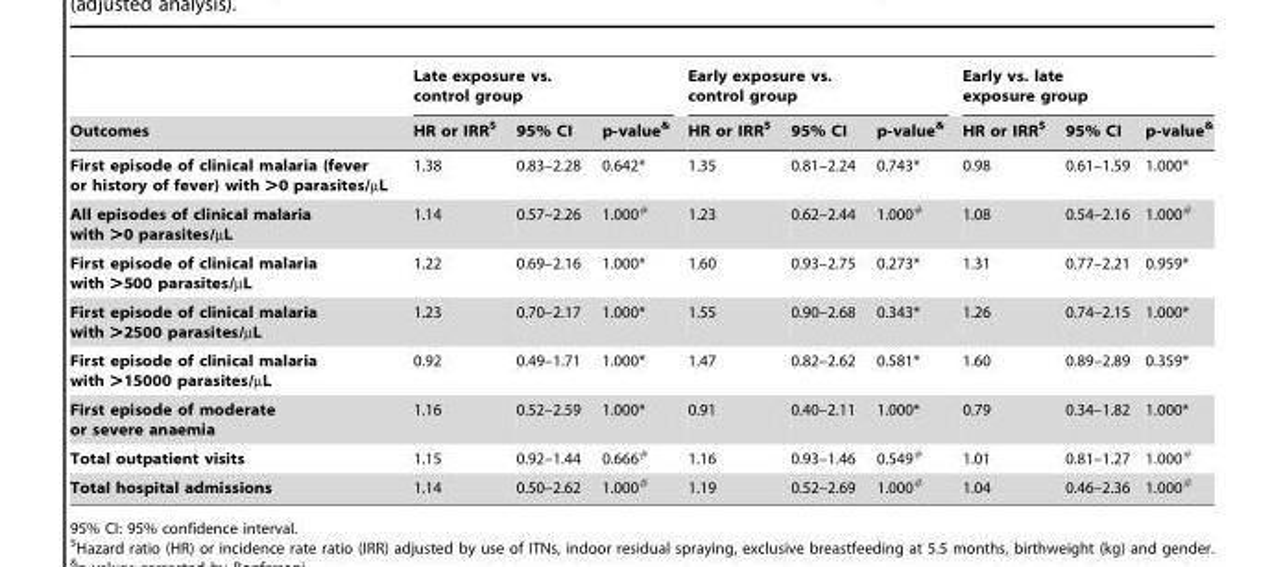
<table><thead><tr><td rowspan="2">Outcomes</td><td colspan="3">Late exposure vs. control group</td><td colspan="3">Early exposure vs. control group</td><td colspan="3">Early vs. late exposure group</td></tr><tr><td>HR or IRR$</td><td>95% CI</td><td>p-value&amp;</td><td>HR or IRR$</td><td>95% CI</td><td>p-value&amp;</td><td>HR or IRR$</td><td>95% CI</td><td>p-value&amp;</td></tr></thead><tbody><tr><td>First episode of clinical malaria (fever or history of fever) with &gt;0 parasites/µL</td><td>1.38</td><td>0.83–2.28</td><td>0.642*</td><td>1.35</td><td>0.81–2.24</td><td>0.743*</td><td>0.98</td><td>0.61–1.59</td><td>1.000*</td></tr><tr><td>All episodes of clinical malaria with &gt;0 parasites/µL</td><td>1.14</td><td>0.57–2.26</td><td>1.000#</td><td>1.23</td><td>0.62–2.44</td><td>1.000#</td><td>1.08</td><td>0.54–2.16</td><td>1.000#</td></tr><tr><td>First episode of clinical malaria with &gt;500 parasites/µL</td><td>1.22</td><td>0.69–2.16</td><td>1.000*</td><td>1.60</td><td>0.93–2.75</td><td>0.273*</td><td>1.31</td><td>0.77–2.21</td><td>0.959*</td></tr><tr><td>First episode of clinical malaria with &gt;2500 parasites/µL</td><td>1.23</td><td>0.70–2.17</td><td>1.000*</td><td>1.55</td><td>0.90–2.68</td><td>0.343*</td><td>1.26</td><td>0.74–2.15</td><td>1.000*</td></tr><tr><td>First episode of clinical malaria with &gt;15000 parasites/µL</td><td>0.92</td><td>0.49–1.71</td><td>1.000*</td><td>1.47</td><td>0.82–2.62</td><td>0.581*</td><td>1.60</td><td>0.89–2.89</td><td>0.359*</td></tr><tr><td>First episode of moderate or severe anaemia</td><td>1.16</td><td>0.52–2.59</td><td>1.000*</td><td>0.91</td><td>0.40–2.11</td><td>1.000*</td><td>0.79</td><td>0.34–1.82</td><td>1.000*</td></tr><tr><td>Total outpatient visits</td><td>1.15</td><td>0.92–1.44</td><td>0.666#</td><td>1.16</td><td>0.93–1.46</td><td>0.549#</td><td>1.01</td><td>0.81–1.27</td><td>1.000#</td></tr><tr><td>Total hospital admissions</td><td>1.14</td><td>0.50–2.62</td><td>1.000#</td><td>1.19</td><td>0.52–2.69</td><td>1.000#</td><td>1.04</td><td>0.46–2.36</td><td>1.000#</td></tr></tbody></table>